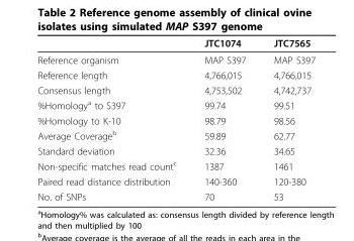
<table><thead><tr><td></td><td>JTC1074</td><td>JTC7565</td></tr></thead><tbody><tr><td>Reference organism</td><td>MAP S397</td><td>MAP S397</td></tr><tr><td>Reference length</td><td>4,766,015</td><td>4,766,015</td></tr><tr><td>Consensus length</td><td>4,753,502</td><td>4,742,737</td></tr><tr><td>%Homology<sup>a</sup> to S397</td><td>99.74</td><td>99.51</td></tr><tr><td>%Homology to K-10</td><td>98.79</td><td>98.56</td></tr><tr><td>Average Coverage<sup>b</sup></td><td>59.89</td><td>62.77</td></tr><tr><td>Standard deviation</td><td>32.36</td><td>34.65</td></tr><tr><td>Non-specific matches read count<sup>c</sup></td><td>1387</td><td>1461</td></tr><tr><td>Paired read distance distribution</td><td>140-360</td><td>120-380</td></tr><tr><td>No. of SNPs</td><td>70</td><td>53</td></tr></tbody></table>